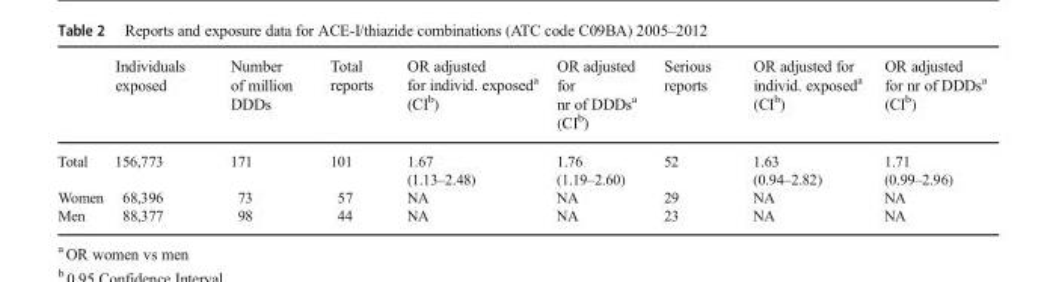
<table><thead><tr><td></td><td>Individuals exposed</td><td>Number of million DDDs</td><td>Total reports</td><td>OR adjusted for individ. exposed<sup>a</sup> (CI<sup>b</sup>)</td><td>OR adjusted for nr of DDDs<sup>a</sup> (CI<sup>b</sup>)</td><td>Serious reports</td><td>OR adjusted for individ. exposed<sup>a</sup> (CI<sup>b</sup>)</td><td>OR adjusted for nr of DDDs<sup>a</sup> (CI<sup>b</sup>)</td></tr></thead><tbody><tr><td>Total</td><td>156,773</td><td>171</td><td>101</td><td>1.67 (1.13–2.48)</td><td>1.76 (1.19–2.60)</td><td>52</td><td>1.63 (0.94–2.82)</td><td>1.71 (0.99–2.96)</td></tr><tr><td>Women</td><td>68,396</td><td>73</td><td>57</td><td>NA</td><td>NA</td><td>29</td><td>NA</td><td>NA</td></tr><tr><td>Men</td><td>88,377</td><td>98</td><td>44</td><td>NA</td><td>NA</td><td>23</td><td>NA</td><td>NA</td></tr></tbody></table>